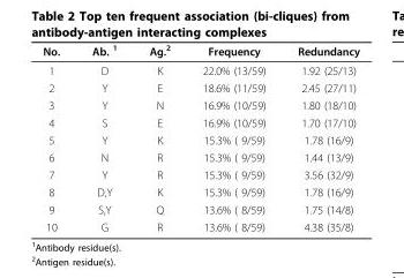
<table><thead><tr><td>No.</td><td>Ab. <sup>1</sup></td><td>Ag.<sup>2</sup></td><td>Frequency</td><td>Redundancy</td></tr></thead><tbody><tr><td>1</td><td>D</td><td>K</td><td>22.0% (13/59)</td><td>1.92 (25/13)</td></tr><tr><td>2</td><td>Y</td><td>E</td><td>18.6% (11/59)</td><td>2.45 (27/11)</td></tr><tr><td>3</td><td>Y</td><td>N</td><td>16.9% (10/59)</td><td>1.80 (18/10)</td></tr><tr><td>4</td><td>S</td><td>E</td><td>16.9% (10/59)</td><td>1.70 (17/10)</td></tr><tr><td>5</td><td>Y</td><td>K</td><td>15.3% ( 9/59)</td><td>1.78 (16/9)</td></tr><tr><td>6</td><td>N</td><td>R</td><td>15.3% ( 9/59)</td><td>1.44 (13/9)</td></tr><tr><td>7</td><td>Y</td><td>R</td><td>15.3% ( 9/59)</td><td>3.56 (32/9)</td></tr><tr><td>8</td><td>D,Y</td><td>K</td><td>15.3% ( 9/59)</td><td>1.78 (16/9)</td></tr><tr><td>9</td><td>S,Y</td><td>Q</td><td>13.6% ( 8/59)</td><td>1.75 (14/8)</td></tr><tr><td>10</td><td>G</td><td>R</td><td>13.6% ( 8/59)</td><td>4.38 (35/8)</td></tr></tbody></table>